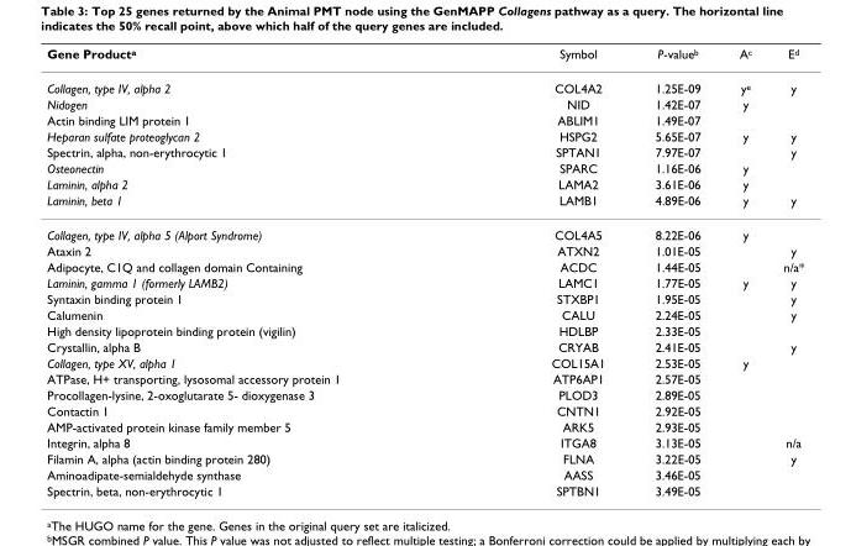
<table><thead><tr><td>Gene Producta</td><td>Symbol</td><td>P-valueb</td><td>Ac</td><td>Ed</td></tr></thead><tbody><tr><td>Collagen, type IV, alpha 2</td><td>COL4A2</td><td>1.25E-09</td><td>ye</td><td>y</td></tr><tr><td>Nidogen</td><td>NID</td><td>1.42E-07</td><td>y</td><td></td></tr><tr><td>Actin binding LIM protein 1</td><td>ABLIM1</td><td>1.49E-07</td><td></td><td></td></tr><tr><td>Heparan sulfate proteoglycan 2</td><td>HSPG2</td><td>5.65E-07</td><td>y</td><td>y</td></tr><tr><td>Spectrin, alpha, non-erythrocytic 1</td><td>SPTAN1</td><td>7.97E-07</td><td></td><td>y</td></tr><tr><td>Osteonectin</td><td>SPARC</td><td>1.16E-06</td><td>y</td><td></td></tr><tr><td>Laminin, alpha 2</td><td>LAMA2</td><td>3.61E-06</td><td>y</td><td></td></tr><tr><td>Laminin, beta 1</td><td>LAMB1</td><td>4.89E-06</td><td>y</td><td>y</td></tr><tr><td>Collagen, type IV, alpha 5 (Alport Syndrome)</td><td>COL4A5</td><td>8.22E-06</td><td>y</td><td></td></tr><tr><td>Ataxin 2</td><td>ATXN2</td><td>1.01E-05</td><td></td><td>y</td></tr><tr><td>Adipocyte, C1Q and collagen domain Containing</td><td>ACDC</td><td>1.44E-05</td><td></td><td>n/a*</td></tr><tr><td>Laminin, gamma 1 (formerly LAMB2)</td><td>LAMC1</td><td>1.77E-05</td><td>y</td><td>y</td></tr><tr><td>Syntaxin binding protein 1</td><td>STXBP1</td><td>1.95E-05</td><td></td><td>y</td></tr><tr><td>Calumenin</td><td>CALU</td><td>2.24E-05</td><td></td><td>y</td></tr><tr><td>High density lipoprotein binding protein (vigilin)</td><td>HDLBP</td><td>2.33E-05</td><td></td><td></td></tr><tr><td>Crystallin, alpha B</td><td>CRYAB</td><td>2.41E-05</td><td></td><td>y</td></tr><tr><td>Collagen, type XV, alpha 1</td><td>COL15A1</td><td>2.53E-05</td><td>y</td><td></td></tr><tr><td>ATPase, H+ transporting, lysosomal accessory protein 1</td><td>ATP6AP1</td><td>2.57E-05</td><td></td><td></td></tr><tr><td>Procollagen-lysine, 2-oxoglutarate 5- dioxygenase 3</td><td>PLOD3</td><td>2.89E-05</td><td></td><td></td></tr><tr><td>Contactin 1</td><td>CNTN1</td><td>2.92E-05</td><td></td><td></td></tr><tr><td>AMP-activated protein kinase family member 5</td><td>ARK5</td><td>2.93E-05</td><td></td><td></td></tr><tr><td>Integrin, alpha 8</td><td>ITGA8</td><td>3.13E-05</td><td></td><td>n/a</td></tr><tr><td>Filamin A, alpha (actin binding protein 280)</td><td>FLNA</td><td>3.22E-05</td><td></td><td>y</td></tr><tr><td>Aminoadipate-semialdehyde synthase</td><td>AASS</td><td>3.46E-05</td><td></td><td></td></tr><tr><td>Spectrin, beta, non-erythrocytic 1</td><td>SPTBN1</td><td>3.49E-05</td><td></td><td></td></tr></tbody></table>